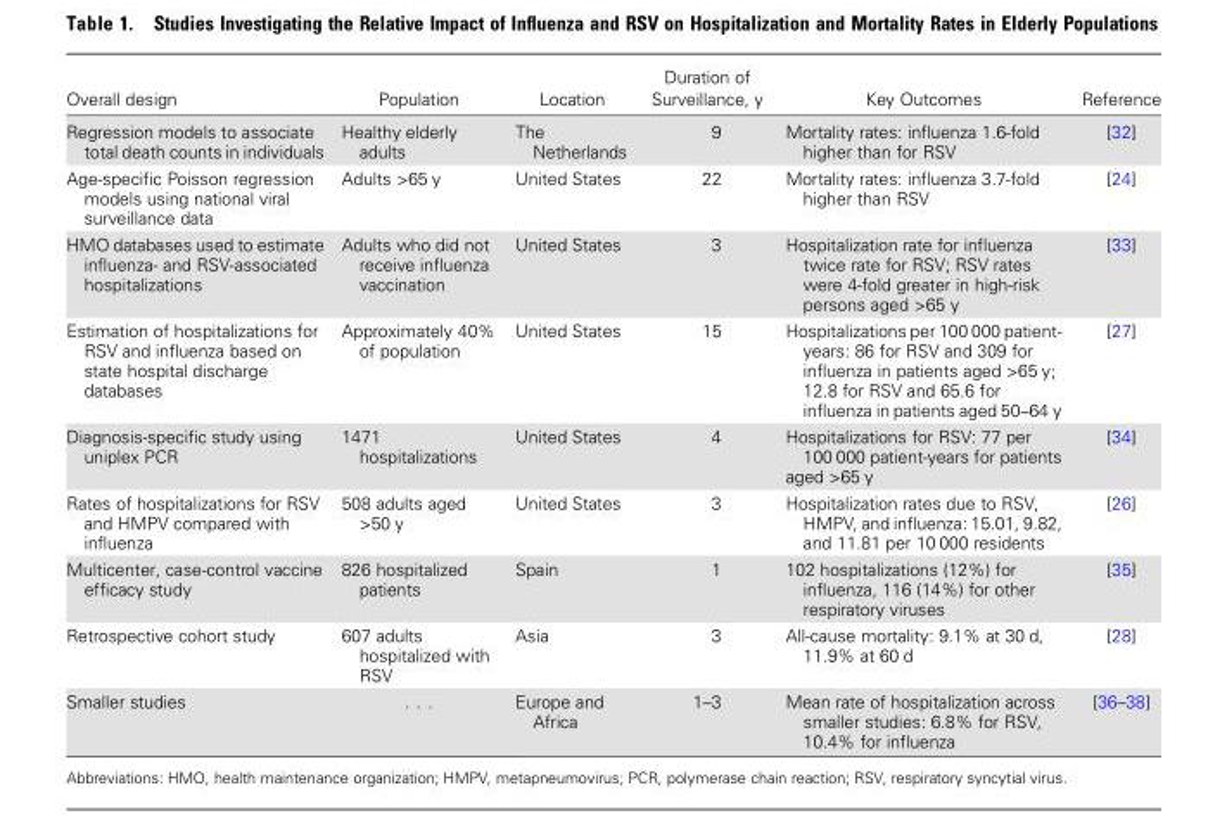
<table><thead><tr><td>Overall design</td><td>Population</td><td>Location</td><td>Duration of Surveillance, y</td><td>Key Outcomes</td><td>Reference</td></tr></thead><tbody><tr><td>Regression models to associate total death counts in individuals</td><td>Healthy elderly adults</td><td>The Netherlands</td><td>9</td><td>Mortality rates: influenza 1.6-fold higher than for RSV</td><td>[32]</td></tr><tr><td>Age-specific Poisson regression models using national viral surveillance data</td><td>Adults &gt;65 y</td><td>United States</td><td>22</td><td>Mortality rates: influenza 3.7-fold higher than RSV</td><td>[24]</td></tr><tr><td>HMO databases used to estimate influenza- and RSV-associated hospitalizations</td><td>Adults who did not receive influenza vaccination</td><td>United States</td><td>3</td><td>Hospitalization rate for influenza twice rate for RSV; RSV rates were 4-fold greater in high-risk persons aged &gt;65 y</td><td>[33]</td></tr><tr><td>Estimation of hospitalizations for RSV and influenza based on state hospital discharge databases</td><td>Approximately 40% of population</td><td>United States</td><td>15</td><td>Hospitalizations per 100 000 patient- years: 86 for RSV and 309 for influenza in patients aged &gt;65 y; 12.8 for RSV and 65.6 for influenza in patients aged 50–64 y</td><td>[27]</td></tr><tr><td>Diagnosis-specific study using uniplex PCR</td><td>1471 hospitalizations</td><td>United States</td><td>4</td><td>Hospitalizations for RSV: 77 per 100 000 patient-years for patients aged &gt;65 y</td><td>[34]</td></tr><tr><td>Rates of hospitalizations for RSV and HMPV compared with influenza</td><td>508 adults aged &gt;50 y</td><td>United States</td><td>3</td><td>Hospitalization rates due to RSV, HMPV, and influenza: 15.01, 9.82, and 11.81 per 10 000 residents</td><td>[26]</td></tr><tr><td>Multicenter, case-control vaccine efficacy study</td><td>826 hospitalized patients</td><td>Spain</td><td>1</td><td>102 hospitalizations (12%) for influenza, 116 (14%) for other respiratory viruses</td><td>[35]</td></tr><tr><td>Retrospective cohort study</td><td>607 adults hospitalized with RSV</td><td>Asia</td><td>3</td><td>All-cause mortality: 9.1% at 30 d, 11.9% at 60 d</td><td>[28]</td></tr><tr><td>Smaller studies</td><td>. . .</td><td>Europe and Africa</td><td>1–3</td><td>Mean rate of hospitalization across smaller studies: 6.8% for RSV, 10.4% for influenza</td><td>[36–38]</td></tr></tbody></table>